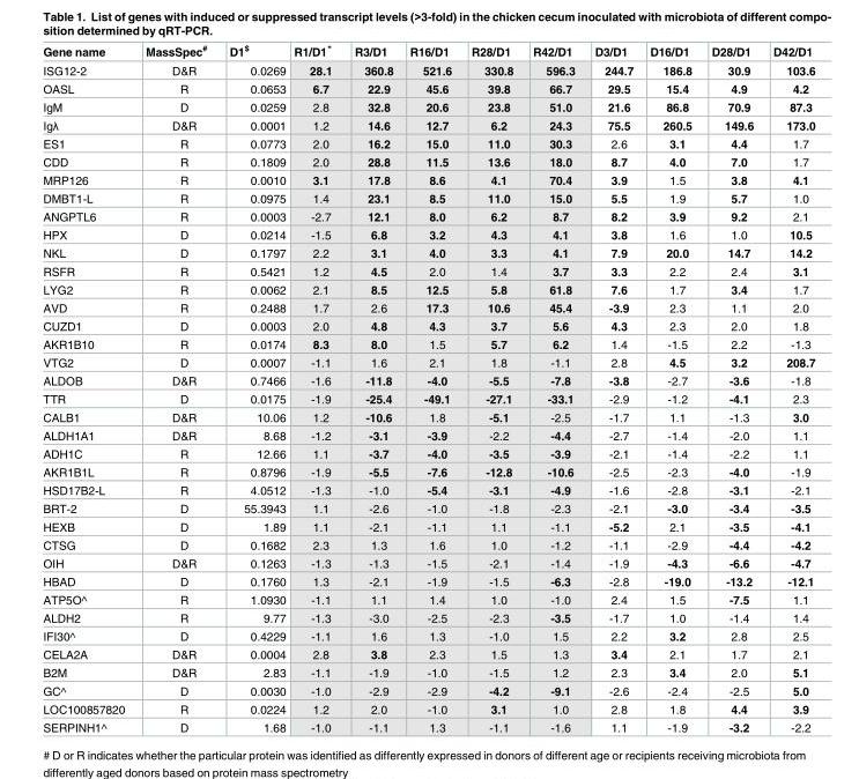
<table><thead><tr><td>Gene name</td><td>MassSpec<sup>#</sup></td><td>D1<sup>$</sup></td><td>R1/D1*</td><td>R3/D1</td><td>R16/D1</td><td>R28/D1</td><td>R42/D1</td><td>D3/D1</td><td>D16/D1</td><td>D28/D1</td><td>D42/D1</td></tr></thead><tbody><tr><td>ISG12-2</td><td>D&amp;R</td><td>0.0269</td><td>28.1</td><td>360.8</td><td>521.6</td><td>330.8</td><td>596.3</td><td>244.7</td><td>186.8</td><td>30.9</td><td>103.6</td></tr><tr><td>OASL</td><td>R</td><td>0.0653</td><td>6.7</td><td>22.9</td><td>45.6</td><td>39.8</td><td>66.7</td><td>29.5</td><td>15.4</td><td>4.9</td><td>4.2</td></tr><tr><td>IgM</td><td>D</td><td>0.0259</td><td>2.8</td><td>32.8</td><td>20.6</td><td>23.8</td><td>51.0</td><td>21.6</td><td>86.8</td><td>70.9</td><td>87.3</td></tr><tr><td>Igλ</td><td>D&amp;R</td><td>0.0001</td><td>1.2</td><td>14.6</td><td>12.7</td><td>6.2</td><td>24.3</td><td>75.5</td><td>260.5</td><td>149.6</td><td>173.0</td></tr><tr><td>ES1</td><td>R</td><td>0.0773</td><td>2.0</td><td>16.2</td><td>15.0</td><td>11.0</td><td>30.3</td><td>2.6</td><td>3.1</td><td>4.4</td><td>1.7</td></tr><tr><td>CDD</td><td>R</td><td>0.1809</td><td>2.0</td><td>28.8</td><td>11.5</td><td>13.6</td><td>18.0</td><td>8.7</td><td>4.0</td><td>7.0</td><td>1.7</td></tr><tr><td>MRP126</td><td>R</td><td>0.0010</td><td>3.1</td><td>17.8</td><td>8.6</td><td>4.1</td><td>70.4</td><td>3.9</td><td>1.5</td><td>3.8</td><td>4.1</td></tr><tr><td>DMBT1-L</td><td>R</td><td>0.0975</td><td>1.4</td><td>23.1</td><td>8.5</td><td>11.0</td><td>15.0</td><td>5.5</td><td>1.9</td><td>5.7</td><td>1.0</td></tr><tr><td>ANGPTL6</td><td>R</td><td>0.0003</td><td>-2.7</td><td>12.1</td><td>8.0</td><td>6.2</td><td>8.7</td><td>8.2</td><td>3.9</td><td>9.2</td><td>2.1</td></tr><tr><td>HPX</td><td>D</td><td>0.0214</td><td>-1.5</td><td>6.8</td><td>3.2</td><td>4.3</td><td>4.1</td><td>3.8</td><td>1.6</td><td>1.0</td><td>10.5</td></tr><tr><td>NKL</td><td>D</td><td>0.1797</td><td>2.2</td><td>3.1</td><td>4.0</td><td>3.3</td><td>4.1</td><td>7.9</td><td>20.0</td><td>14.7</td><td>14.2</td></tr><tr><td>RSFR</td><td>R</td><td>0.5421</td><td>1.2</td><td>4.5</td><td>2.0</td><td>1.4</td><td>3.7</td><td>3.3</td><td>2.2</td><td>2.4</td><td>3.1</td></tr><tr><td>LYG2</td><td>R</td><td>0.0062</td><td>2.1</td><td>8.5</td><td>12.5</td><td>5.8</td><td>61.8</td><td>7.6</td><td>1.7</td><td>3.4</td><td>1.7</td></tr><tr><td>AVD</td><td>R</td><td>0.2488</td><td>1.7</td><td>2.6</td><td>17.3</td><td>10.6</td><td>45.4</td><td>-3.9</td><td>2.3</td><td>1.1</td><td>2.0</td></tr><tr><td>CUZD1</td><td>D</td><td>0.0003</td><td>2.0</td><td>4.8</td><td>4.3</td><td>3.7</td><td>5.6</td><td>4.3</td><td>2.3</td><td>2.0</td><td>1.8</td></tr><tr><td>AKR1B10</td><td>R</td><td>0.0174</td><td>8.3</td><td>8.0</td><td>1.5</td><td>5.7</td><td>6.2</td><td>1.4</td><td>-1.5</td><td>2.2</td><td>-1.3</td></tr><tr><td>VTG2</td><td>D</td><td>0.0007</td><td>-1.1</td><td>1.6</td><td>2.1</td><td>1.8</td><td>-1.1</td><td>2.8</td><td>4.5</td><td>3.2</td><td>208.7</td></tr><tr><td>ALDOB</td><td>D&amp;R</td><td>0.7466</td><td>-1.6</td><td>-11.8</td><td>-4.0</td><td>-5.5</td><td>-7.8</td><td>-3.8</td><td>-2.7</td><td>-3.6</td><td>-1.8</td></tr><tr><td>TTR</td><td>D</td><td>0.0175</td><td>-1.9</td><td>-25.4</td><td>-49.1</td><td>-27.1</td><td>-33.1</td><td>-2.9</td><td>-1.2</td><td>-4.1</td><td>2.3</td></tr><tr><td>CALB1</td><td>D&amp;R</td><td>10.06</td><td>1.2</td><td>-10.6</td><td>1.8</td><td>-5.1</td><td>-2.5</td><td>-1.7</td><td>1.1</td><td>-1.3</td><td>3.0</td></tr><tr><td>ALDH1A1</td><td>D&amp;R</td><td>8.68</td><td>-1.2</td><td>-3.1</td><td>-3.9</td><td>-2.2</td><td>-4.4</td><td>-2.7</td><td>-1.4</td><td>-2.0</td><td>1.1</td></tr><tr><td>ADH1C</td><td>R</td><td>12.66</td><td>1.1</td><td>-3.7</td><td>-4.0</td><td>-3.5</td><td>-3.9</td><td>-2.1</td><td>-1.4</td><td>-2.2</td><td>1.1</td></tr><tr><td>AKR1B1L</td><td>R</td><td>0.8796</td><td>-1.9</td><td>-5.5</td><td>-7.6</td><td>-12.8</td><td>-10.6</td><td>-2.5</td><td>-2.3</td><td>-4.0</td><td>-1.9</td></tr><tr><td>HSD17B2-L</td><td>R</td><td>4.0512</td><td>-1.3</td><td>-1.0</td><td>-5.4</td><td>-3.1</td><td>-4.9</td><td>-1.6</td><td>-2.8</td><td>-3.1</td><td>-2.1</td></tr><tr><td>BRT-2</td><td>D</td><td>55.3943</td><td>1.1</td><td>-2.6</td><td>-1.0</td><td>-1.8</td><td>-2.3</td><td>-2.1</td><td>-3.0</td><td>-3.4</td><td>-3.5</td></tr><tr><td>HEXB</td><td>D</td><td>1.89</td><td>1.1</td><td>-2.1</td><td>-1.1</td><td>1.1</td><td>-1.1</td><td>-5.2</td><td>2.1</td><td>-3.5</td><td>-4.1</td></tr><tr><td>CTSG</td><td>D</td><td>0.1682</td><td>2.3</td><td>1.3</td><td>1.6</td><td>1.0</td><td>-1.2</td><td>-1.1</td><td>-2.9</td><td>-4.4</td><td>-4.2</td></tr><tr><td>OIH</td><td>D&amp;R</td><td>0.1263</td><td>-1.3</td><td>-1.3</td><td>-1.5</td><td>-2.1</td><td>-1.4</td><td>-1.9</td><td>-4.3</td><td>-6.6</td><td>-4.7</td></tr><tr><td>HBAD</td><td>D</td><td>0.1760</td><td>1.3</td><td>-2.1</td><td>-1.9</td><td>-1.5</td><td>-6.3</td><td>-2.8</td><td>-19.0</td><td>-13.2</td><td>-12.1</td></tr><tr><td>ATP5O^</td><td>R</td><td>1.0930</td><td>-1.1</td><td>1.1</td><td>1.4</td><td>1.0</td><td>-1.0</td><td>2.4</td><td>1.5</td><td>-7.5</td><td>1.1</td></tr><tr><td>ALDH2</td><td>R</td><td>9.77</td><td>-1.3</td><td>-3.0</td><td>-2.5</td><td>-2.3</td><td>-3.5</td><td>-1.7</td><td>1.0</td><td>-1.4</td><td>1.4</td></tr><tr><td>IFI30^</td><td>D</td><td>0.4229</td><td>-1.1</td><td>1.6</td><td>1.3</td><td>-1.0</td><td>1.5</td><td>2.2</td><td>3.2</td><td>2.8</td><td>2.5</td></tr><tr><td>CELA2A</td><td>D&amp;R</td><td>0.0004</td><td>2.8</td><td>3.8</td><td>2.3</td><td>1.5</td><td>1.3</td><td>3.4</td><td>2.1</td><td>1.7</td><td>2.1</td></tr><tr><td>B2M</td><td>D&amp;R</td><td>2.83</td><td>-1.1</td><td>-1.9</td><td>-1.0</td><td>-1.5</td><td>1.2</td><td>2.3</td><td>3.4</td><td>2.0</td><td>5.1</td></tr><tr><td>GC^</td><td>D</td><td>0.0030</td><td>-1.0</td><td>-2.9</td><td>-2.9</td><td>-4.2</td><td>-9.1</td><td>-2.6</td><td>-2.4</td><td>-2.5</td><td>5.0</td></tr><tr><td>LOC100857820</td><td>R</td><td>0.0224</td><td>1.2</td><td>2.0</td><td>-1.0</td><td>3.1</td><td>1.0</td><td>2.8</td><td>1.8</td><td>4.4</td><td>3.9</td></tr><tr><td>SERPINH1^</td><td>D</td><td>1.68</td><td>-1.0</td><td>-1.1</td><td>1.3</td><td>-1.1</td><td>-1.6</td><td>1.1</td><td>-1.9</td><td>-3.2</td><td>-2.2</td></tr></tbody></table>